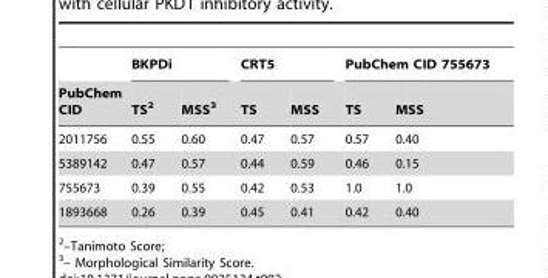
<table><thead><tr><td rowspan="2">PubChem CID</td><td colspan="2">BKPDi</td><td colspan="2">CRT5</td><td colspan="2">PubChem CID 755673</td></tr><tr><td>TS<sup>2</sup></td><td>MSS<sup>3</sup></td><td>TS</td><td>MSS</td><td>TS</td><td>MSS</td></tr></thead><tbody><tr><td>2011756</td><td>0.55</td><td>0.60</td><td>0.47</td><td>0.57</td><td>0.57</td><td>0.40</td></tr><tr><td>5389142</td><td>0.47</td><td>0.57</td><td>0.44</td><td>0.59</td><td>0.46</td><td>0.15</td></tr><tr><td>755673</td><td>0.39</td><td>0.55</td><td>0.42</td><td>0.53</td><td>1.0</td><td>1.0</td></tr><tr><td>1893668</td><td>0.26</td><td>0.39</td><td>0.45</td><td>0.41</td><td>0.42</td><td>0.40</td></tr></tbody></table>